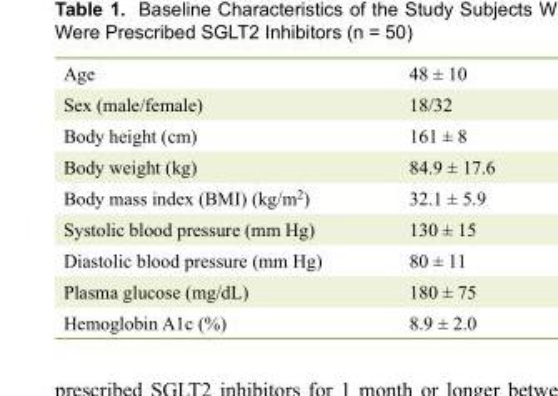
<table><tbody><tr><td>Age</td><td>48 ± 10</td></tr><tr><td>Sex (male/female)</td><td>18/32</td></tr><tr><td>Body height (cm)</td><td>161 ± 8</td></tr><tr><td>Body weight (kg)</td><td>84.9 ± 17.6</td></tr><tr><td>Body mass index (BMI) (kg/m<sup>2</sup>)</td><td>32.1 ± 5.9</td></tr><tr><td>Systolic blood pressure (mm Hg)</td><td>130 ± 15</td></tr><tr><td>Diastolic blood pressure (mm Hg)</td><td>80 ± 11</td></tr><tr><td>Plasma glucose (mg/dL)</td><td>180 ± 75</td></tr><tr><td>Hemoglobin A1c (%)</td><td>8.9 ± 2.0</td></tr></tbody></table>